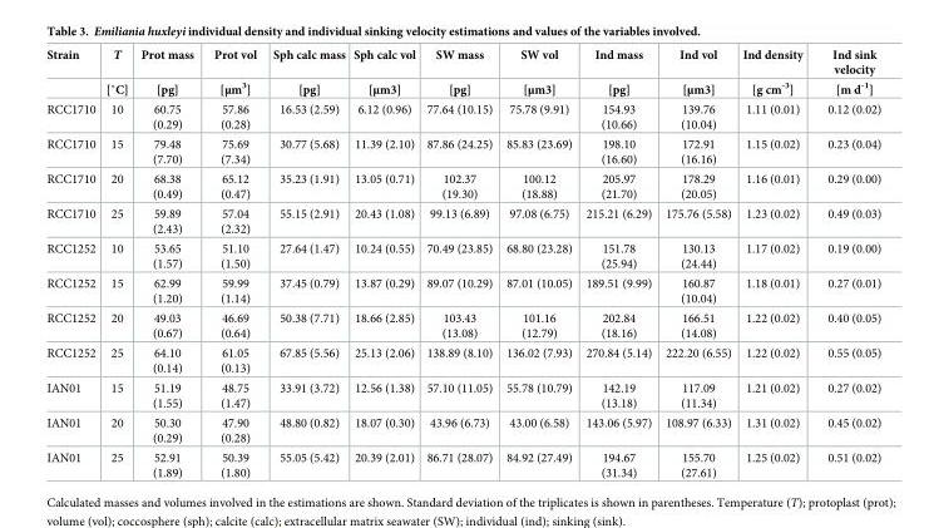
<table><thead><tr><td rowspan="2">Strain</td><td rowspan="2">T [˚C]</td><td rowspan="2">Prot mass [pg]</td><td rowspan="2">Prot vol [μm3]</td><td rowspan="2">Sph calc mass [pg]</td><td rowspan="2">Sph calc vol [μm3]</td><td rowspan="2">SW mass [pg]</td><td rowspan="2">SW vol [μm3]</td><td rowspan="2">Ind mass [pg]</td><td rowspan="2">Ind vol [μm3]</td><td rowspan="2">Ind density [g cm<sup>-3</sup>]</td><td rowspan="2">Ind sink velocity [m d<sup>-1</sup>]</td></tr><tr></tr></thead><tbody><tr><td>RCC1710</td><td>10</td><td>60.75 (0.29)</td><td>57.86 (0.28)</td><td>16.53 (2.59)</td><td>6.12 (0.96)</td><td>77.64 (10.15)</td><td>75.78 (9.91)</td><td>154.93 (10.66)</td><td>139.76 (10.04)</td><td>1.11 (0.01)</td><td>0.12 (0.02)</td></tr><tr><td>RCC1710</td><td>15</td><td>79.48 (7.70)</td><td>75.69 (7.34)</td><td>30.77 (5.68)</td><td>11.39 (2.10)</td><td>87.86 (24.25)</td><td>85.83 (23.69)</td><td>198.10 (16.60)</td><td>172.91 (16.16)</td><td>1.15 (0.02)</td><td>0.23 (0.04)</td></tr><tr><td>RCC1710</td><td>20</td><td>68.38 (0.49)</td><td>65.12 (0.47)</td><td>35.23 (1.91)</td><td>13.05 (0.71)</td><td>102.37 (19.30)</td><td>100.12 (18.88)</td><td>205.97 (21.70)</td><td>178.29 (20.05)</td><td>1.16 (0.01)</td><td>0.29 (0.00)</td></tr><tr><td>RCC1710</td><td>25</td><td>59.89 (2.43)</td><td>57.04 (2.32)</td><td>55.15 (2.91)</td><td>20.43 (1.08)</td><td>99.13 (6.89)</td><td>97.08 (6.75)</td><td>215.21 (6.29)</td><td>175.76 (5.58)</td><td>1.23 (0.02)</td><td>0.49 (0.03)</td></tr><tr><td>RCC1252</td><td>10</td><td>53.65 (1.57)</td><td>51.10 (1.50)</td><td>27.64 (1.47)</td><td>10.24 (0.55)</td><td>70.49 (23.85)</td><td>68.80 (23.28)</td><td>151.78 (25.94)</td><td>130.13 (24.44)</td><td>1.17 (0.02)</td><td>0.19 (0.00)</td></tr><tr><td>RCC1252</td><td>15</td><td>62.99 (1.20)</td><td>59.99 (1.14)</td><td>37.45 (0.79)</td><td>13.87 (0.29)</td><td>89.07 (10.29)</td><td>87.01 (10.05)</td><td>189.51 (9.99)</td><td>160.87 (10.04)</td><td>1.18 (0.01)</td><td>0.27 (0.01)</td></tr><tr><td>RCC1252</td><td>20</td><td>49.03 (0.67)</td><td>46.69 (0.64)</td><td>50.38 (7.71)</td><td>18.66 (2.85)</td><td>103.43 (13.08)</td><td>101.16 (12.79)</td><td>202.84 (18.16)</td><td>166.51 (14.08)</td><td>1.22 (0.02)</td><td>0.40 (0.05)</td></tr><tr><td>RCC1252</td><td>25</td><td>64.10 (0.14)</td><td>61.05 (0.13)</td><td>67.85 (5.56)</td><td>25.13 (2.06)</td><td>138.89 (8.10)</td><td>136.02 (7.93)</td><td>270.84 (5.14)</td><td>222.20 (6.55)</td><td>1.22 (0.02)</td><td>0.55 (0.05)</td></tr><tr><td>IAN01</td><td>15</td><td>51.19 (1.55)</td><td>48.75 (1.47)</td><td>33.91 (3.72)</td><td>12.56 (1.38)</td><td>57.10 (11.05)</td><td>55.78 (10.79)</td><td>142.19 (13.18)</td><td>117.09 (11.34)</td><td>1.21 (0.02)</td><td>0.27 (0.02)</td></tr><tr><td>IAN01</td><td>20</td><td>50.30 (0.29)</td><td>47.90 (0.28)</td><td>48.80 (0.82)</td><td>18.07 (0.30)</td><td>43.96 (6.73)</td><td>43.00 (6.58)</td><td>143.06 (5.97)</td><td>108.97 (6.33)</td><td>1.31 (0.02)</td><td>0.45 (0.02)</td></tr><tr><td>IAN01</td><td>25</td><td>52.91 (1.89)</td><td>50.39 (1.80)</td><td>55.05 (5.42)</td><td>20.39 (2.01)</td><td>86.71 (28.07)</td><td>84.92 (27.49)</td><td>194.67 (31.34)</td><td>155.70 (27.61)</td><td>1.25 (0.02)</td><td>0.51 (0.02)</td></tr></tbody></table>